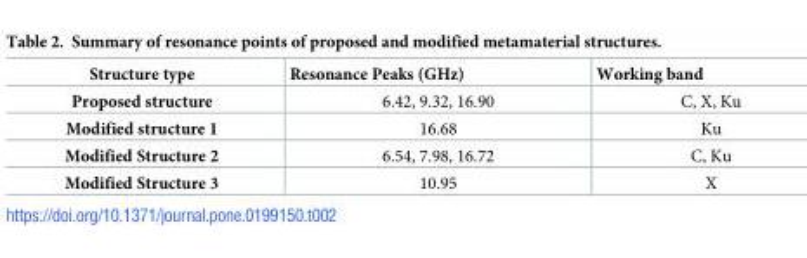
<table><thead><tr><td>Structure type</td><td>Resonance Peaks (GHz)</td><td>Working band</td></tr></thead><tbody><tr><td>Proposed structure</td><td>6.42, 9.32, 16.90</td><td>C, X, Ku</td></tr><tr><td>Modified structure 1</td><td>16.68</td><td>Ku</td></tr><tr><td>Modified Structure 2</td><td>6.54, 7.98, 16.72</td><td>C, Ku</td></tr><tr><td>Modified Structure 3</td><td>10.95</td><td>X</td></tr></tbody></table>